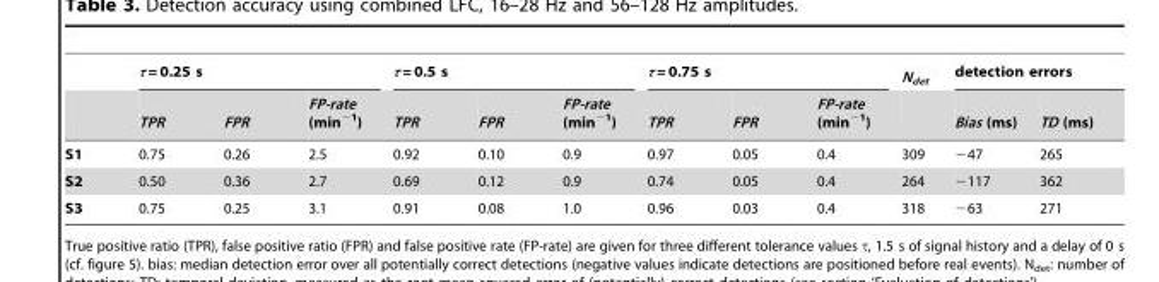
<table><thead><tr><td rowspan="2"></td><td colspan="3">τ = 0.25 s</td><td colspan="3">τ = 0.5 s</td><td colspan="3">τ = 0.75 s</td><td rowspan="2">N<sub>det</sub></td><td colspan="2">detection errors</td></tr><tr><td>TPR</td><td>FPR</td><td>FP-rate (min<sup>−1</sup>)</td><td>TPR</td><td>FPR</td><td>FP-rate (min<sup>−1</sup>)</td><td>TPR</td><td>FPR</td><td>FP-rate (min<sup>−1</sup>)</td><td>Bias (ms)</td><td>TD (ms)</td></tr></thead><tbody><tr><td>S1</td><td>0.75</td><td>0.26</td><td>2.5</td><td>0.92</td><td>0.10</td><td>0.9</td><td>0.97</td><td>0.05</td><td>0.4</td><td>309</td><td>−47</td><td>265</td></tr><tr><td>S2</td><td>0.50</td><td>0.36</td><td>2.7</td><td>0.69</td><td>0.12</td><td>0.9</td><td>0.74</td><td>0.05</td><td>0.4</td><td>264</td><td>−117</td><td>362</td></tr><tr><td>S3</td><td>0.75</td><td>0.25</td><td>3.1</td><td>0.91</td><td>0.08</td><td>1.0</td><td>0.96</td><td>0.03</td><td>0.4</td><td>318</td><td>−63</td><td>271</td></tr></tbody></table>